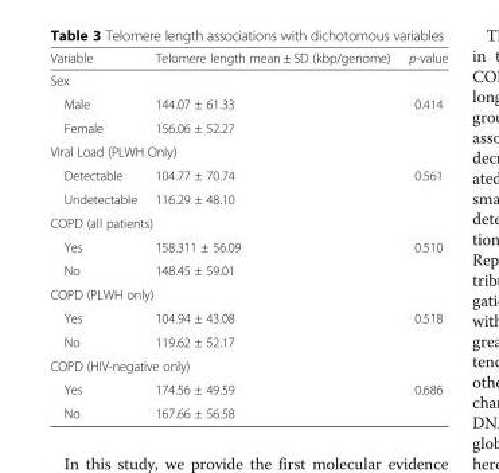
<table><thead><tr><td>Variable</td><td>Telomere length mean ± SD (kbp/genome)</td><td>p-value</td></tr></thead><tbody><tr><td colspan="3">Sex</td></tr><tr><td>Male</td><td>144.07 ± 61.33</td><td rowspan="2">0.414</td></tr><tr><td>Female</td><td>156.06 ± 52.27</td></tr><tr><td colspan="3">Viral Load (PLWH Only)</td></tr><tr><td>Detectable</td><td>104.77 ± 70.74</td><td rowspan="2">0.561</td></tr><tr><td>Undetectable</td><td>116.29 ± 48.10</td></tr><tr><td colspan="3">COPD (all patients)</td></tr><tr><td>Yes</td><td>158.311 ± 56.09</td><td rowspan="2">0.510</td></tr><tr><td>No</td><td>148.45 ± 59.01</td></tr><tr><td colspan="3">COPD (PLWH only)</td></tr><tr><td>Yes</td><td>104.94 ± 43.08</td><td rowspan="2">0.518</td></tr><tr><td>No</td><td>119.62 ± 52.17</td></tr><tr><td colspan="3">COPD (HIV-negative only)</td></tr><tr><td>Yes</td><td>174.56 ± 49.59</td><td rowspan="2">0.686</td></tr><tr><td>No</td><td>167.66 ± 56.58</td></tr></tbody></table>